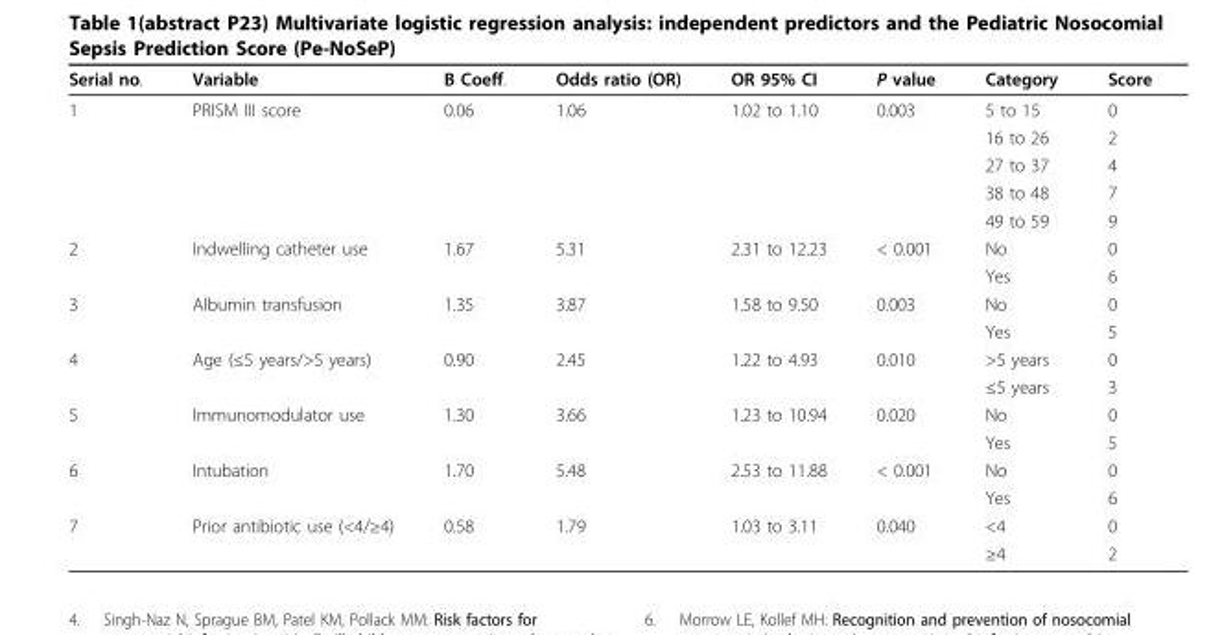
<table><thead><tr><td>Serial no.</td><td>Variable</td><td>B Coeff.</td><td>Odds ratio (OR)</td><td>OR 95% CI</td><td>P value</td><td>Category</td><td>Score</td></tr></thead><tbody><tr><td rowspan="5">1</td><td>PRISM III score</td><td>0.06</td><td>1.06</td><td>1.02 to 1.10</td><td>0.003</td><td>5 to 15</td><td>0</td></tr><tr><td></td><td></td><td></td><td></td><td></td><td>16 to 26</td><td>2</td></tr><tr><td></td><td></td><td></td><td></td><td></td><td>27 to 37</td><td>4</td></tr><tr><td></td><td></td><td></td><td></td><td></td><td>38 to 48</td><td>7</td></tr><tr><td></td><td></td><td></td><td></td><td></td><td>49 to 59</td><td>9</td></tr><tr><td rowspan="2">2</td><td>Indwelling catheter use</td><td>1.67</td><td>5.31</td><td>2.31 to 12.23</td><td>&lt; 0.001</td><td>No</td><td>0</td></tr><tr><td></td><td></td><td></td><td></td><td></td><td>Yes</td><td>6</td></tr><tr><td rowspan="2">3</td><td>Albumin transfusion</td><td>1.35</td><td>3.87</td><td>1.58 to 9.50</td><td>0.003</td><td>No</td><td>0</td></tr><tr><td></td><td></td><td></td><td></td><td></td><td>Yes</td><td>5</td></tr><tr><td rowspan="2">4</td><td>Age (≤5 years/&gt;5 years)</td><td>0.90</td><td>2.45</td><td>1.22 to 4.93</td><td>0.010</td><td>&gt;5 years</td><td>0</td></tr><tr><td></td><td></td><td></td><td></td><td></td><td>≤5 years</td><td>3</td></tr><tr><td rowspan="2">5</td><td>Immunomodulator use</td><td>1.30</td><td>3.66</td><td>1.23 to 10.94</td><td>0.020</td><td>No</td><td>0</td></tr><tr><td></td><td></td><td></td><td></td><td></td><td>Yes</td><td>5</td></tr><tr><td rowspan="2">6</td><td>Intubation</td><td>1.70</td><td>5.48</td><td>2.53 to 11.88</td><td>&lt; 0.001</td><td>No</td><td>0</td></tr><tr><td></td><td></td><td></td><td></td><td></td><td>Yes</td><td>6</td></tr><tr><td rowspan="2">7</td><td>Prior antibiotic use (&lt;4/≥4)</td><td>0.58</td><td>1.79</td><td>1.03 to 3.11</td><td>0.040</td><td>&lt;4</td><td>0</td></tr><tr><td></td><td></td><td></td><td></td><td></td><td>≥4</td><td>2</td></tr></tbody></table>